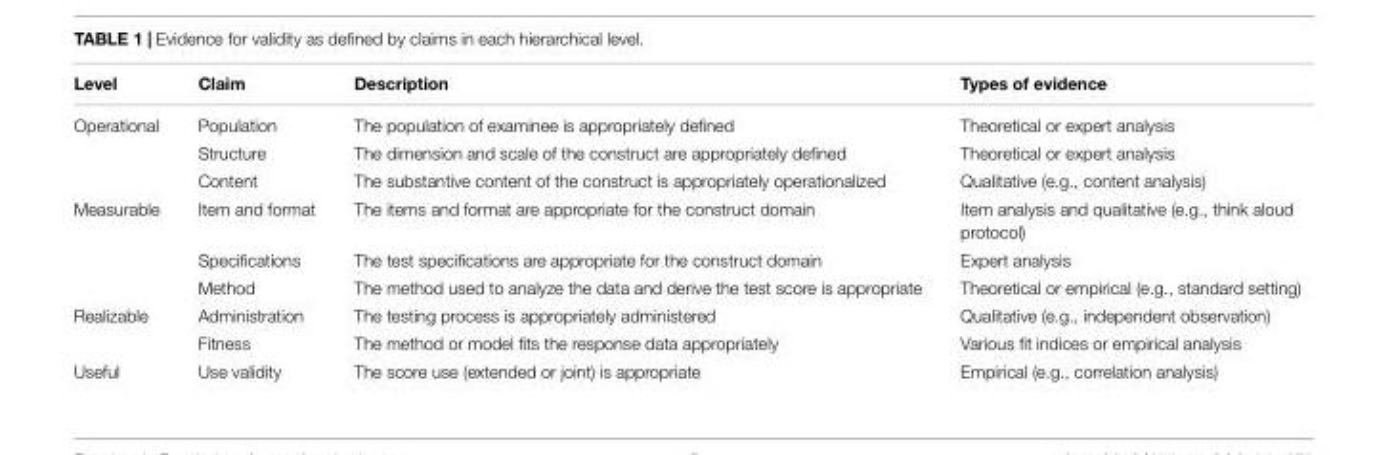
<table><thead><tr><td>Level</td><td>Claim</td><td>Description</td><td>Types of evidence</td></tr></thead><tbody><tr><td rowspan="3">Operational</td><td>Population</td><td>The population of examinee is appropriately defined</td><td>Theoretical or expert analysis</td></tr><tr><td>Structure</td><td>The dimension and scale of the construct are appropriately defined</td><td>Theoretical or expert analysis</td></tr><tr><td>Content</td><td>The substantive content of the construct is appropriately operationalized</td><td>Qualitative (e.g., content analysis)</td></tr><tr><td rowspan="3">Measurable</td><td>Item and format</td><td>The items and format are appropriate for the construct domain</td><td>Item analysis and qualitative (e.g., think aloud protocol)</td></tr><tr><td>Specifications</td><td>The test specifications are appropriate for the construct domain</td><td>Expert analysis</td></tr><tr><td>Method</td><td>The method used to analyze the data and derive the test score is appropriate</td><td>Theoretical or empirical (e.g., standard setting)</td></tr><tr><td rowspan="2">Realizable</td><td>Administration</td><td>The testing process is appropriately administered</td><td>Qualitative (e.g., independent observation)</td></tr><tr><td>Fitness</td><td>The method or model fits the response data appropriately</td><td>Various fit indices or empirical analysis</td></tr><tr><td>Useful</td><td>Use validity</td><td>The score use (extended or joint) is appropriate</td><td>Empirical (e.g., correlation analysis)</td></tr></tbody></table>